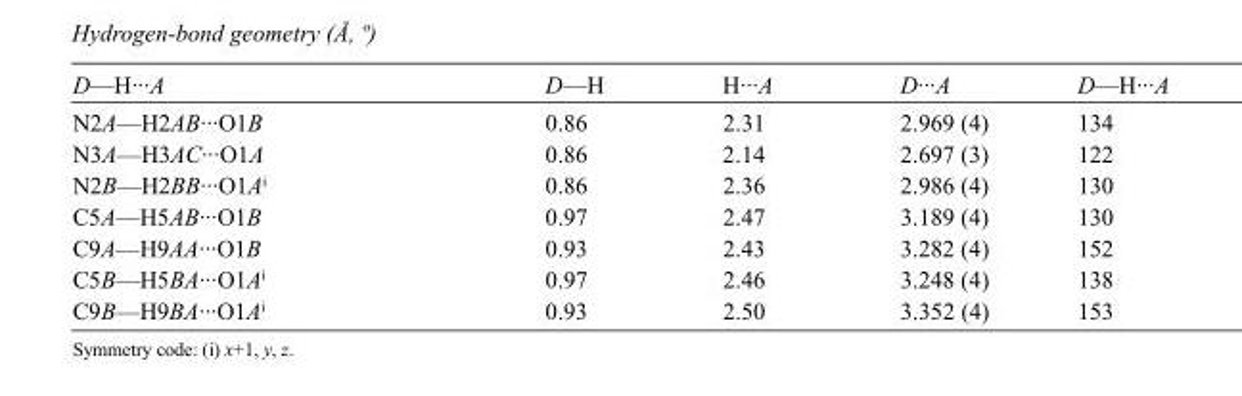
<table><tbody><tr><td>D—H···A</td><td>D—H</td><td>H···A</td><td>D···A</td><td>D—H···A</td></tr><tr><td>N2A—H2AB···O1B</td><td>0.86</td><td>2.31</td><td>2.969 (4)</td><td>134</td></tr><tr><td>N3A—H3AC···O1A</td><td>0.86</td><td>2.14</td><td>2.697 (3)</td><td>122</td></tr><tr><td>N2B—H2BB···O1A<sup>i</sup></td><td>0.86</td><td>2.36</td><td>2.986 (4)</td><td>130</td></tr><tr><td>C5A—H5AB···O1B</td><td>0.97</td><td>2.47</td><td>3.189 (4)</td><td>130</td></tr><tr><td>C9A—H9AA···O1B</td><td>0.93</td><td>2.43</td><td>3.282 (4)</td><td>152</td></tr><tr><td>C5B—H5BA···O1A<sup>i</sup></td><td>0.97</td><td>2.46</td><td>3.248 (4)</td><td>138</td></tr><tr><td>C9B—H9BA···O1A<sup>i</sup></td><td>0.93</td><td>2.50</td><td>3.352 (4)</td><td>153</td></tr></tbody></table>